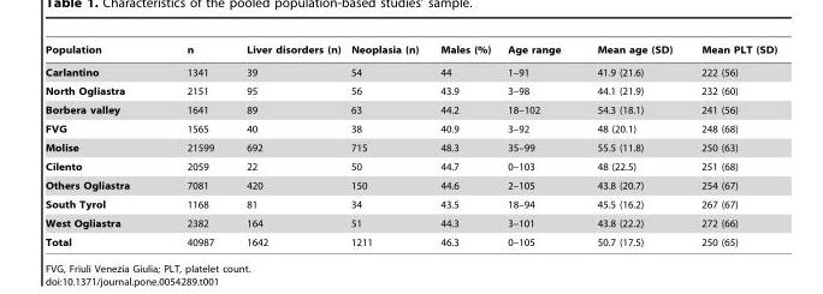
<table><thead><tr><td>Population</td><td>n</td><td>Liver disorders (n)</td><td>Neoplasia (n)</td><td>Males (%)</td><td>Age range</td><td>Mean age (SD)</td><td>Mean PLT (SD)</td></tr></thead><tbody><tr><td>Carlantino</td><td>1341</td><td>39</td><td>54</td><td>44</td><td>1–91</td><td>41.9 (21.6)</td><td>222 (56)</td></tr><tr><td>North Ogliastra</td><td>2151</td><td>95</td><td>56</td><td>43.9</td><td>3–98</td><td>44.1 (21.9)</td><td>232 (60)</td></tr><tr><td>Borbera valley</td><td>1641</td><td>89</td><td>63</td><td>44.2</td><td>18–102</td><td>54.3 (18.1)</td><td>241 (56)</td></tr><tr><td>FVG</td><td>1565</td><td>40</td><td>38</td><td>40.9</td><td>3–92</td><td>48 (20.1)</td><td>248 (68)</td></tr><tr><td>Molise</td><td>21599</td><td>692</td><td>715</td><td>48.3</td><td>35–99</td><td>55.5 (11.8)</td><td>250 (63)</td></tr><tr><td>Cilento</td><td>2059</td><td>22</td><td>50</td><td>44.7</td><td>0–103</td><td>48 (22.5)</td><td>251 (68)</td></tr><tr><td>Others Ogliastra</td><td>7081</td><td>420</td><td>150</td><td>44.6</td><td>2–105</td><td>43.8 (20.7)</td><td>254 (67)</td></tr><tr><td>South Tyrol</td><td>1168</td><td>81</td><td>34</td><td>43.5</td><td>18–94</td><td>45.5 (16.2)</td><td>267 (67)</td></tr><tr><td>West Ogliastra</td><td>2382</td><td>164</td><td>51</td><td>44.3</td><td>3–101</td><td>43.8 (22.2)</td><td>272 (66)</td></tr><tr><td>Total</td><td>40987</td><td>1642</td><td>1211</td><td>46.3</td><td>0–105</td><td>50.7 (17.5)</td><td>250 (65)</td></tr></tbody></table>